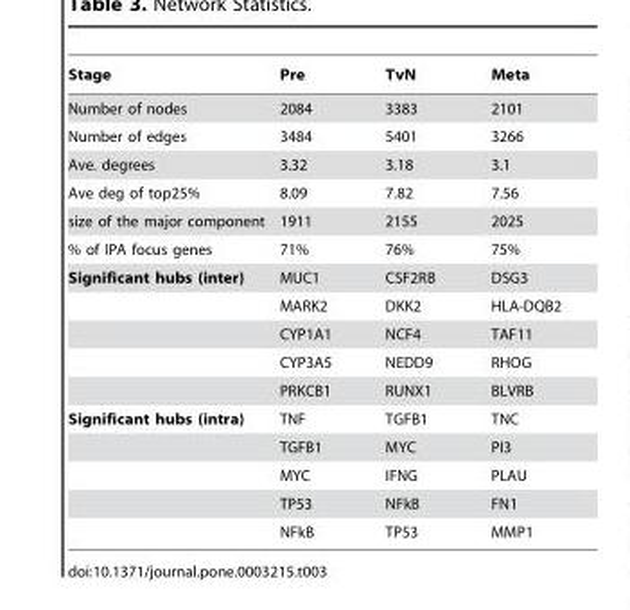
<table><thead><tr><td>Stage</td><td>Pre</td><td>TvN</td><td>Meta</td></tr></thead><tbody><tr><td>Number of nodes</td><td>2084</td><td>3383</td><td>2101</td></tr><tr><td>Number of edges</td><td>3484</td><td>5401</td><td>3266</td></tr><tr><td>Ave. degrees</td><td>3.32</td><td>3.18</td><td>3.1</td></tr><tr><td>Ave deg of top25%</td><td>8.09</td><td>7.82</td><td>7.56</td></tr><tr><td>size of the major component</td><td>1911</td><td>2155</td><td>2025</td></tr><tr><td>% of IPA focus genes</td><td>71%</td><td>76%</td><td>75%</td></tr><tr><td rowspan="5">Significant hubs (inter)</td><td>MUC1</td><td>CSF2RB</td><td>DSG3</td></tr><tr><td>MARK2</td><td>DKK2</td><td>HLA-DQB2</td></tr><tr><td>CYP1A1</td><td>NCF4</td><td>TAF11</td></tr><tr><td>CYP3A5</td><td>NEDD9</td><td>RHOG</td></tr><tr><td>PRKCB1</td><td>RUNX1</td><td>BLVRB</td></tr><tr><td rowspan="5">Significant hubs (intra)</td><td>TNF</td><td>TGFB1</td><td>TNC</td></tr><tr><td>TGFB1</td><td>MYC</td><td>PI3</td></tr><tr><td>MYC</td><td>IFNG</td><td>PLAU</td></tr><tr><td>TP53</td><td>NFkB</td><td>FN1</td></tr><tr><td>NFkB</td><td>TP53</td><td>MMP1</td></tr></tbody></table>